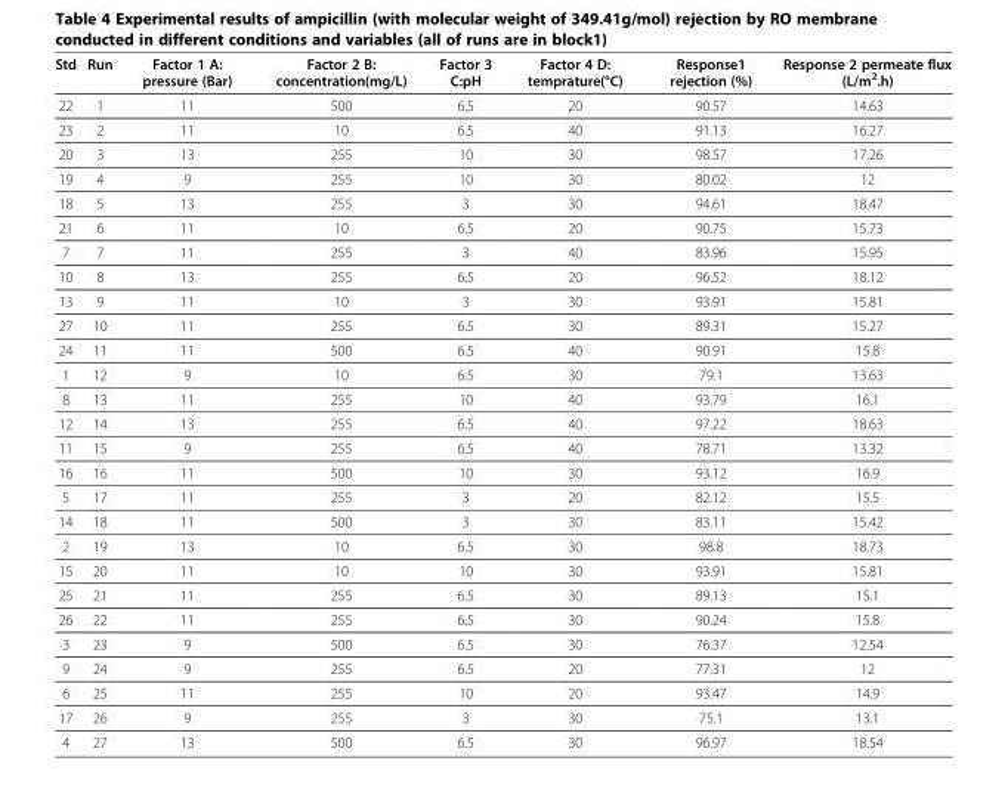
<table><thead><tr><td>Std</td><td>Run</td><td>Factor 1 A: pressure (Bar)</td><td>Factor 2 B: concentration(mg/L)</td><td>Factor 3 C:pH</td><td>Factor 4 D: temprature(°C)</td><td>Response1 rejection (%)</td><td>Response 2 permeate flux (L/m<sup>2</sup>.h)</td></tr></thead><tbody><tr><td>22</td><td>1</td><td>11</td><td>500</td><td>6.5</td><td>20</td><td>90.57</td><td>14.63</td></tr><tr><td>23</td><td>2</td><td>11</td><td>10</td><td>6.5</td><td>40</td><td>91.13</td><td>16.27</td></tr><tr><td>20</td><td>3</td><td>13</td><td>255</td><td>10</td><td>30</td><td>98.57</td><td>17.26</td></tr><tr><td>19</td><td>4</td><td>9</td><td>255</td><td>10</td><td>30</td><td>80.02</td><td>12</td></tr><tr><td>18</td><td>5</td><td>13</td><td>255</td><td>3</td><td>30</td><td>94.61</td><td>18.47</td></tr><tr><td>21</td><td>6</td><td>11</td><td>10</td><td>6.5</td><td>20</td><td>90.75</td><td>15.73</td></tr><tr><td>7</td><td>7</td><td>11</td><td>255</td><td>3</td><td>40</td><td>83.96</td><td>15.95</td></tr><tr><td>10</td><td>8</td><td>13</td><td>255</td><td>6.5</td><td>20</td><td>96.52</td><td>18.12</td></tr><tr><td>13</td><td>9</td><td>11</td><td>10</td><td>3</td><td>30</td><td>93.91</td><td>15.81</td></tr><tr><td>27</td><td>10</td><td>11</td><td>255</td><td>6.5</td><td>30</td><td>89.31</td><td>15.27</td></tr><tr><td>24</td><td>11</td><td>11</td><td>500</td><td>6.5</td><td>40</td><td>90.91</td><td>15.8</td></tr><tr><td>1</td><td>12</td><td>9</td><td>10</td><td>6.5</td><td>30</td><td>79.1</td><td>13.63</td></tr><tr><td>8</td><td>13</td><td>11</td><td>255</td><td>10</td><td>40</td><td>93.79</td><td>16.1</td></tr><tr><td>12</td><td>14</td><td>13</td><td>255</td><td>6.5</td><td>40</td><td>97.22</td><td>18.63</td></tr><tr><td>11</td><td>15</td><td>9</td><td>255</td><td>6.5</td><td>40</td><td>78.71</td><td>13.32</td></tr><tr><td>16</td><td>16</td><td>11</td><td>500</td><td>10</td><td>30</td><td>93.12</td><td>16.9</td></tr><tr><td>5</td><td>17</td><td>11</td><td>255</td><td>3</td><td>20</td><td>82.12</td><td>15.5</td></tr><tr><td>14</td><td>18</td><td>11</td><td>500</td><td>3</td><td>30</td><td>83.11</td><td>15.42</td></tr><tr><td>2</td><td>19</td><td>13</td><td>10</td><td>6.5</td><td>30</td><td>98.8</td><td>18.73</td></tr><tr><td>15</td><td>20</td><td>11</td><td>10</td><td>10</td><td>30</td><td>93.91</td><td>15.81</td></tr><tr><td>25</td><td>21</td><td>11</td><td>255</td><td>6.5</td><td>30</td><td>89.13</td><td>15.1</td></tr><tr><td>26</td><td>22</td><td>11</td><td>255</td><td>6.5</td><td>30</td><td>90.24</td><td>15.8</td></tr><tr><td>3</td><td>23</td><td>9</td><td>500</td><td>6.5</td><td>30</td><td>76.37</td><td>12.54</td></tr><tr><td>9</td><td>24</td><td>9</td><td>255</td><td>6.5</td><td>20</td><td>77.31</td><td>12</td></tr><tr><td>6</td><td>25</td><td>11</td><td>255</td><td>10</td><td>20</td><td>93.47</td><td>14.9</td></tr><tr><td>17</td><td>26</td><td>9</td><td>255</td><td>3</td><td>30</td><td>75.1</td><td>13.1</td></tr><tr><td>4</td><td>27</td><td>13</td><td>500</td><td>6.5</td><td>30</td><td>96.97</td><td>18.54</td></tr></tbody></table>